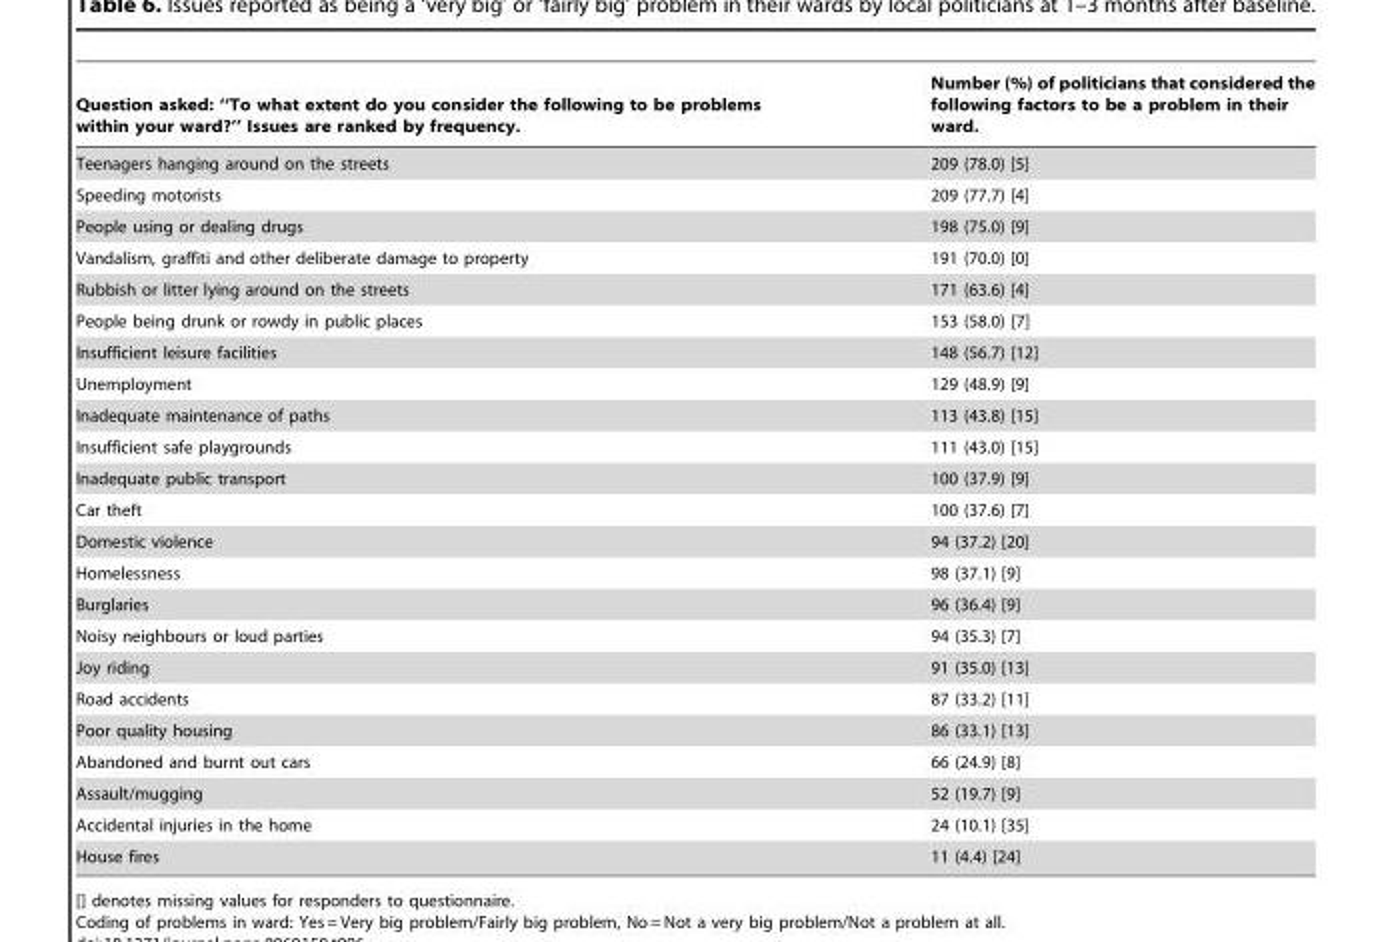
<table><thead><tr><td>Question asked: ‘‘To what extent do you consider the following to be problems within your ward?’’ Issues are ranked by frequency.</td><td>Number (%) of politicians that considered the following factors to be a problem in their ward.</td></tr></thead><tbody><tr><td>Teenagers hanging around on the streets</td><td>209 (78.0) [5]</td></tr><tr><td>Speeding motorists</td><td>209 (77.7) [4]</td></tr><tr><td>People using or dealing drugs</td><td>198 (75.0) [9]</td></tr><tr><td>Vandalism, graffiti and other deliberate damage to property</td><td>191 (70.0) [0]</td></tr><tr><td>Rubbish or litter lying around on the streets</td><td>171 (63.6) [4]</td></tr><tr><td>People being drunk or rowdy in public places</td><td>153 (58.0) [7]</td></tr><tr><td>Insufficient leisure facilities</td><td>148 (56.7) [12]</td></tr><tr><td>Unemployment</td><td>129 (48.9) [9]</td></tr><tr><td>Inadequate maintenance of paths</td><td>113 (43.8) [15]</td></tr><tr><td>Insufficient safe playgrounds</td><td>111 (43.0) [15]</td></tr><tr><td>Inadequate public transport</td><td>100 (37.9) [9]</td></tr><tr><td>Car theft</td><td>100 (37.6) [7]</td></tr><tr><td>Domestic violence</td><td>94 (37.2) [20]</td></tr><tr><td>Homelessness</td><td>98 (37.1) [9]</td></tr><tr><td>Burglaries</td><td>96 (36.4) [9]</td></tr><tr><td>Noisy neighbours or loud parties</td><td>94 (35.3) [7]</td></tr><tr><td>Joy riding</td><td>91 (35.0) [13]</td></tr><tr><td>Road accidents</td><td>87 (33.2) [11]</td></tr><tr><td>Poor quality housing</td><td>86 (33.1) [13]</td></tr><tr><td>Abandoned and burnt out cars</td><td>66 (24.9) [8]</td></tr><tr><td>Assault/mugging</td><td>52 (19.7) [9]</td></tr><tr><td>Accidental injuries in the home</td><td>24 (10.1) [35]</td></tr><tr><td>House fires</td><td>11 (4.4) [24]</td></tr></tbody></table>